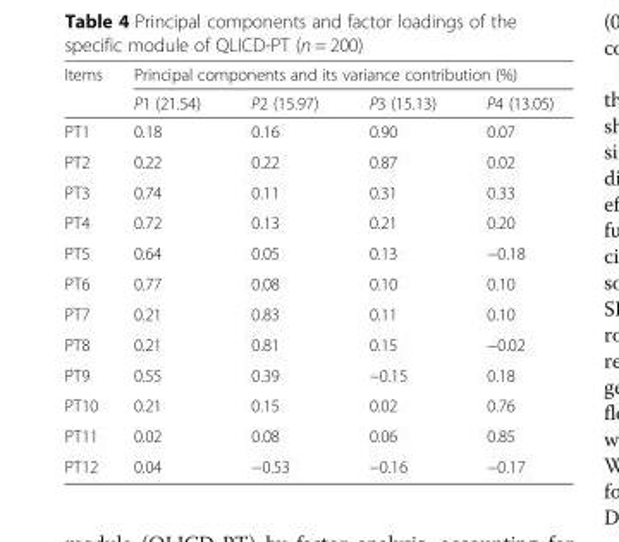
<table><thead><tr><td rowspan="2">Items</td><td colspan="4">Principal components and its variance contribution (%)</td></tr><tr><td>P1 (21.54)</td><td>P2 (15.97)</td><td>P3 (15.13)</td><td>P4 (13.05)</td></tr></thead><tbody><tr><td>PT1</td><td>0.18</td><td>0.16</td><td>0.90</td><td>0.07</td></tr><tr><td>PT2</td><td>0.22</td><td>0.22</td><td>0.87</td><td>0.02</td></tr><tr><td>PT3</td><td>0.74</td><td>0.11</td><td>0.31</td><td>0.33</td></tr><tr><td>PT4</td><td>0.72</td><td>0.13</td><td>0.21</td><td>0.20</td></tr><tr><td>PT5</td><td>0.64</td><td>0.05</td><td>0.13</td><td>−0.18</td></tr><tr><td>PT6</td><td>0.77</td><td>0.08</td><td>0.10</td><td>0.10</td></tr><tr><td>PT7</td><td>0.21</td><td>0.83</td><td>0.11</td><td>0.10</td></tr><tr><td>PT8</td><td>0.21</td><td>0.81</td><td>0.15</td><td>−0.02</td></tr><tr><td>PT9</td><td>0.55</td><td>0.39</td><td>−0.15</td><td>0.18</td></tr><tr><td>PT10</td><td>0.21</td><td>0.15</td><td>0.02</td><td>0.76</td></tr><tr><td>PT11</td><td>0.02</td><td>0.08</td><td>0.06</td><td>0.85</td></tr><tr><td>PT12</td><td>0.04</td><td>−0.53</td><td>−0.16</td><td>−0.17</td></tr></tbody></table>